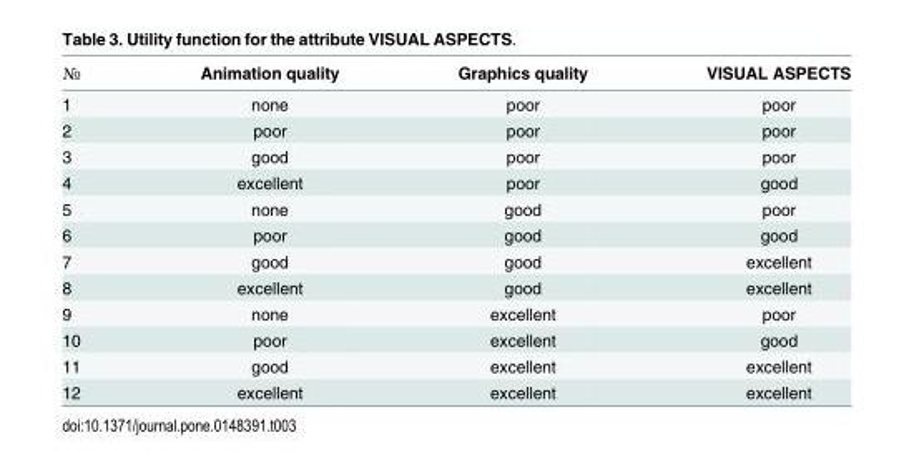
<table><thead><tr><td>№</td><td>Animation quality</td><td>Graphics quality</td><td>VISUAL ASPECTS</td></tr></thead><tbody><tr><td>1</td><td>none</td><td>poor</td><td>poor</td></tr><tr><td>2</td><td>poor</td><td>poor</td><td>poor</td></tr><tr><td>3</td><td>good</td><td>poor</td><td>poor</td></tr><tr><td>4</td><td>excellent</td><td>poor</td><td>good</td></tr><tr><td>5</td><td>none</td><td>good</td><td>poor</td></tr><tr><td>6</td><td>poor</td><td>good</td><td>good</td></tr><tr><td>7</td><td>good</td><td>good</td><td>excellent</td></tr><tr><td>8</td><td>excellent</td><td>good</td><td>excellent</td></tr><tr><td>9</td><td>none</td><td>excellent</td><td>poor</td></tr><tr><td>10</td><td>poor</td><td>excellent</td><td>good</td></tr><tr><td>11</td><td>good</td><td>excellent</td><td>excellent</td></tr><tr><td>12</td><td>excellent</td><td>excellent</td><td>excellent</td></tr></tbody></table>